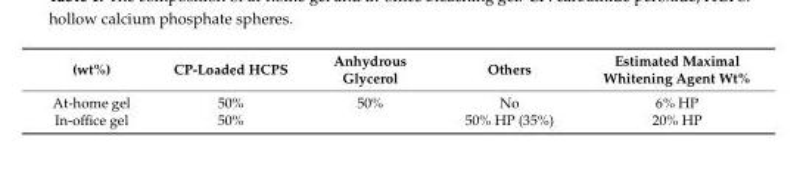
<table><thead><tr><td>(wt%)</td><td>CP-Loaded HCPS</td><td>Anhydrous Glycerol</td><td>Others</td><td>Estimated Maximal Whitening Agent Wt%</td></tr></thead><tbody><tr><td>At-home gel</td><td>50%</td><td>50%</td><td>No</td><td>6% HP</td></tr><tr><td>In-office gel</td><td>50%</td><td></td><td>50% HP (35%)</td><td>20% HP</td></tr></tbody></table>